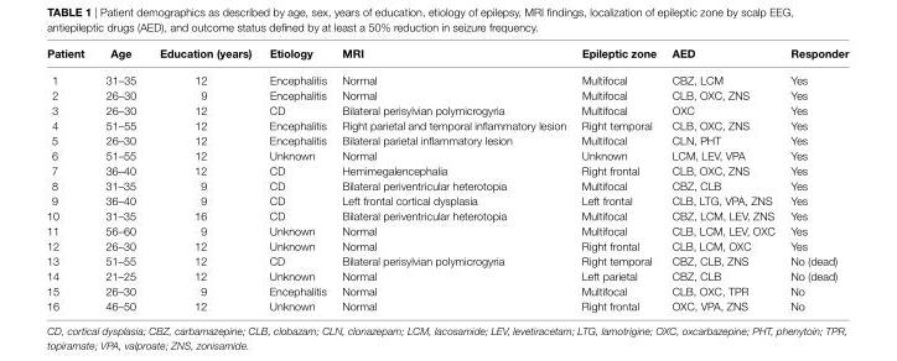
<table><thead><tr><td>patient</td><td>age</td><td>education (years)</td><td>etiology</td><td>Mri</td><td>epileptic zone</td><td>aed</td><td>responder</td></tr></thead><tbody><tr><td>1</td><td>31–35</td><td>12</td><td>Encephalitis</td><td>Normal</td><td>Multifocal</td><td>CBZ, LCM</td><td>Yes</td></tr><tr><td>2</td><td>26–30</td><td>9</td><td>Encephalitis</td><td>Normal</td><td>Multifocal</td><td>CLB, OXC, ZNS</td><td>Yes</td></tr><tr><td>3</td><td>26–30</td><td>12</td><td>CD</td><td>Bilateral perisylvian polymicrogyria</td><td>Multifocal</td><td>OXC</td><td>Yes</td></tr><tr><td>4</td><td>51–55</td><td>12</td><td>Encephalitis</td><td>Right parietal and temporal inflammatory lesion</td><td>Right temporal</td><td>CLB, OXC, ZNS</td><td>Yes</td></tr><tr><td>5</td><td>26–30</td><td>12</td><td>Encephalitis</td><td>Bilateral parietal inflammatory lesion</td><td>Multifocal</td><td>CLN, PHT</td><td>Yes</td></tr><tr><td>6</td><td>51–55</td><td>12</td><td>Unknown</td><td>Normal</td><td>Unknown</td><td>LCM, LEV, VPA</td><td>Yes</td></tr><tr><td>7</td><td>36–40</td><td>12</td><td>CD</td><td>Hemimegalencephalia</td><td>Right frontal</td><td>CLB, OXC, ZNS</td><td>Yes</td></tr><tr><td>8</td><td>31–35</td><td>9</td><td>CD</td><td>Bilateral periventricular heterotopia</td><td>Multifocal</td><td>CBZ, CLB</td><td>Yes</td></tr><tr><td>9</td><td>36–40</td><td>9</td><td>CD</td><td>Left frontal cortical dysplasia</td><td>Left frontal</td><td>CLB, LTG, VPA, ZNS</td><td>Yes</td></tr><tr><td>10</td><td>31–35</td><td>16</td><td>CD</td><td>Bilateral periventricular heterotopia</td><td>Multifocal</td><td>CBZ, LCM, LEV, ZNS</td><td>Yes</td></tr><tr><td>11</td><td>56–60</td><td>9</td><td>Unknown</td><td>Normal</td><td>Multifocal</td><td>CLB, LCM, LEV, OXC</td><td>Yes</td></tr><tr><td>12</td><td>26–30</td><td>12</td><td>Unknown</td><td>Normal</td><td>Right frontal</td><td>CLB, LCM, OXC</td><td>Yes</td></tr><tr><td>13</td><td>51–55</td><td>12</td><td>CD</td><td>Bilateral perisylvian polymicrogyria</td><td>Right temporal</td><td>CBZ, CLB, ZNS</td><td>No (dead)</td></tr><tr><td>14</td><td>21–25</td><td>12</td><td>Unknown</td><td>Normal</td><td>Left parietal</td><td>CBZ, CLB</td><td>No (dead)</td></tr><tr><td>15</td><td>26–30</td><td>9</td><td>Encephalitis</td><td>Normal</td><td>Multifocal</td><td>CLB, OXC, TPR</td><td>No</td></tr><tr><td>16</td><td>46–50</td><td>12</td><td>Unknown</td><td>Normal</td><td>Right frontal</td><td>OXC, VPA, ZNS</td><td>No</td></tr></tbody></table>